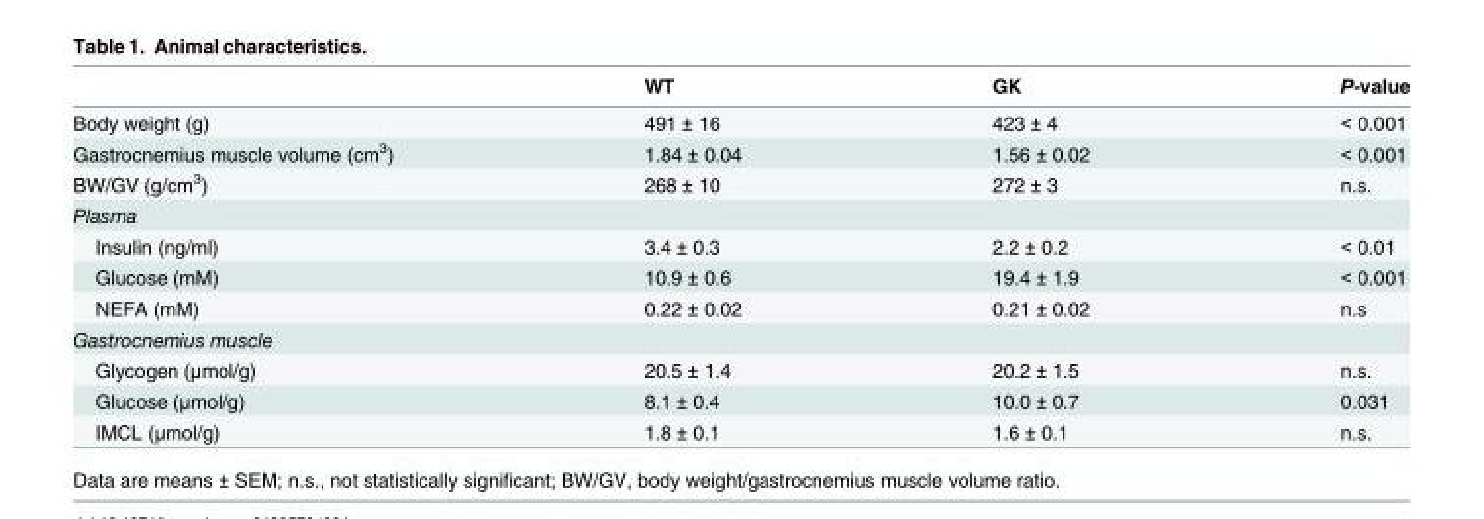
<table><thead><tr><td></td><td>WT</td><td>GK</td><td>P-value</td></tr></thead><tbody><tr><td>Body weight (g)</td><td>491 ± 16</td><td>423 ± 4</td><td>&lt; 0.001</td></tr><tr><td>Gastrocnemius muscle volume (cm<sup>3</sup>)</td><td>1.84 ± 0.04</td><td>1.56 ± 0.02</td><td>&lt; 0.001</td></tr><tr><td>BW/GV (g/cm<sup>3</sup>)</td><td>268 ± 10</td><td>272 ± 3</td><td>n.s.</td></tr><tr><td colspan="4">Plasma</td></tr><tr><td>Insulin (ng/ml)</td><td>3.4 ± 0.3</td><td>2.2 ± 0.2</td><td>&lt; 0.01</td></tr><tr><td>Glucose (mM)</td><td>10.9 ± 0.6</td><td>19.4 ± 1.9</td><td>&lt; 0.001</td></tr><tr><td>NEFA (mM)</td><td>0.22 ± 0.02</td><td>0.21 ± 0.02</td><td>n.s</td></tr><tr><td colspan="4">Gastrocnemius muscle</td></tr><tr><td>Glycogen (μmol/g)</td><td>20.5 ± 1.4</td><td>20.2 ± 1.5</td><td>n.s.</td></tr><tr><td>Glucose (μmol/g)</td><td>8.1 ± 0.4</td><td>10.0 ± 0.7</td><td>0.031</td></tr><tr><td>IMCL (μmol/g)</td><td>1.8 ± 0.1</td><td>1.6 ± 0.1</td><td>n.s.</td></tr></tbody></table>